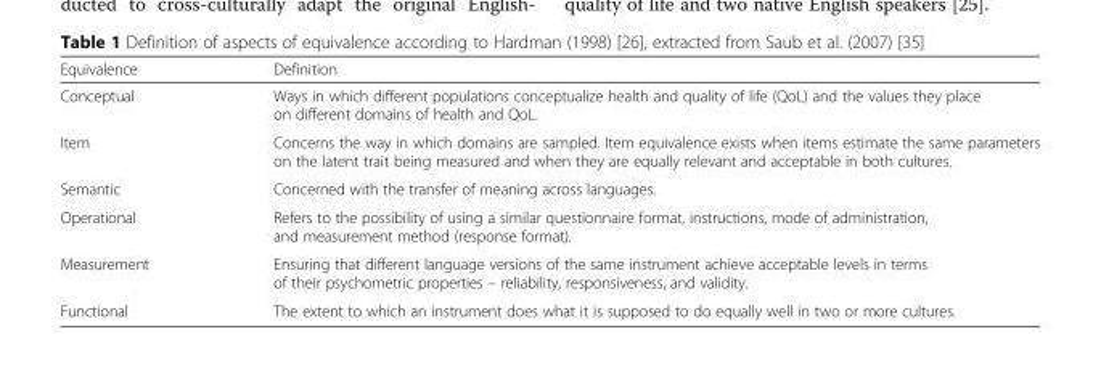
<table><thead><tr><td>Equivalence</td><td>Definition</td></tr></thead><tbody><tr><td>Conceptual</td><td>Ways in which different populations conceptualize health and quality of life (QoL) and the values they place on different domains of health and QoL.</td></tr><tr><td>Item</td><td>Concerns the way in which domains are sampled. Item equivalence exists when items estimate the same parameters on the latent trait being measured and when they are equally relevant and acceptable in both cultures.</td></tr><tr><td>Semantic</td><td>Concerned with the transfer of meaning across languages.</td></tr><tr><td>Operational</td><td>Refers to the possibility of using a similar questionnaire format, instructions, mode of administration, and measurement method (response format).</td></tr><tr><td>Measurement</td><td>Ensuring that different language versions of the same instrument achieve acceptable levels in terms of their psychometric properties – reliability, responsiveness, and validity.</td></tr><tr><td>Functional</td><td>The extent to which an instrument does what it is supposed to do equally well in two or more cultures.</td></tr></tbody></table>